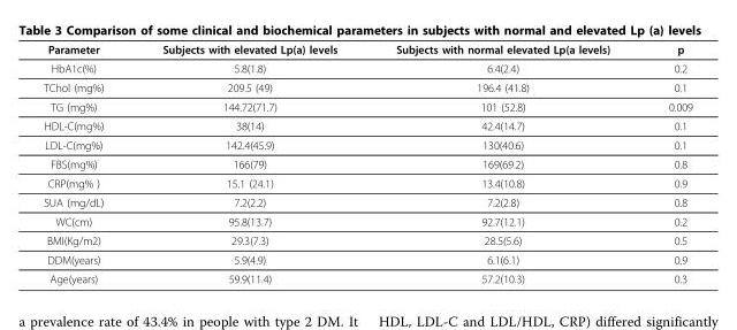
<table><thead><tr><td>Parameter</td><td>Subjects with elevated Lp(a) levels</td><td>Subjects with normal elevated Lp(a levels)</td><td>p</td></tr></thead><tbody><tr><td>HbA1c(%)</td><td>5.8(1.8)</td><td>6.4(2.4)</td><td>0.2</td></tr><tr><td>TChol (mg%)</td><td>209.5 (49)</td><td>196.4 (41.8)</td><td>0.1</td></tr><tr><td>TG (mg%)</td><td>144.72(71.7)</td><td>101 (52.8)</td><td>0.009</td></tr><tr><td>HDL-C(mg%)</td><td>38(14)</td><td>42.4(14.7)</td><td>0.1</td></tr><tr><td>LDL-C(mg%)</td><td>142.4(45.9)</td><td>130(40.6)</td><td>0.1</td></tr><tr><td>FBS(mg%)</td><td>166(79)</td><td>169(69.2)</td><td>0.8</td></tr><tr><td>CRP(mg% )</td><td>15.1 (24.1)</td><td>13.4(10.8)</td><td>0.9</td></tr><tr><td>SUA (mg/dL)</td><td>7.2(2.2)</td><td>7.2(2.8)</td><td>0.8</td></tr><tr><td>WC(cm)</td><td>95.8(13.7)</td><td>92.7(12.1)</td><td>0.2</td></tr><tr><td>BMI(Kg/m2)</td><td>29.3(7.3)</td><td>28.5(5.6)</td><td>0.5</td></tr><tr><td>DDM(years)</td><td>5.9(4.9)</td><td>6.1(6.1)</td><td>0.9</td></tr><tr><td>Age(years)</td><td>59.9(11.4)</td><td>57.2(10.3)</td><td>0.3</td></tr></tbody></table>